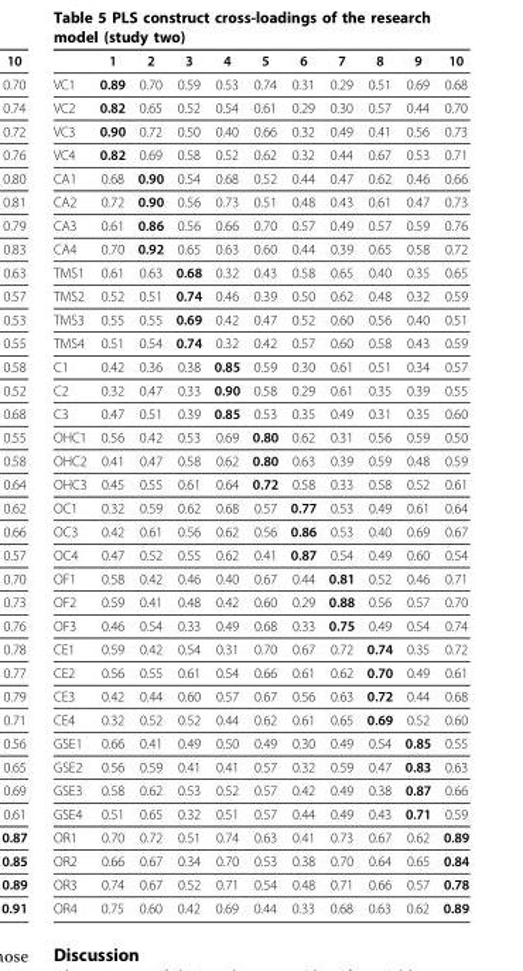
<table><thead><tr><td></td><td>1</td><td>2</td><td>3</td><td>4</td><td>5</td><td>6</td><td>7</td><td>8</td><td>9</td><td>10</td></tr></thead><tbody><tr><td>VC1</td><td>0.89</td><td>0.70</td><td>0.59</td><td>0.53</td><td>0.74</td><td>0.31</td><td>0.29</td><td>0.51</td><td>0.69</td><td>0.68</td></tr><tr><td>VC2</td><td>0.82</td><td>0.65</td><td>0.52</td><td>0.54</td><td>0.61</td><td>0.29</td><td>0.30</td><td>0.57</td><td>0.44</td><td>0.70</td></tr><tr><td>VC3</td><td>0.90</td><td>0.72</td><td>0.50</td><td>0.40</td><td>0.66</td><td>0.32</td><td>0.49</td><td>0.41</td><td>0.56</td><td>0.73</td></tr><tr><td>VC4</td><td>0.82</td><td>0.69</td><td>0.58</td><td>0.52</td><td>0.62</td><td>0.32</td><td>0.44</td><td>0.67</td><td>0.53</td><td>0.71</td></tr><tr><td>CA1</td><td>0.68</td><td>0.90</td><td>0.54</td><td>0.68</td><td>0.52</td><td>0.44</td><td>0.47</td><td>0.62</td><td>0.46</td><td>0.66</td></tr><tr><td>CA2</td><td>0.72</td><td>0.90</td><td>0.56</td><td>0.73</td><td>0.51</td><td>0.48</td><td>0.43</td><td>0.61</td><td>0.47</td><td>0.73</td></tr><tr><td>CA3</td><td>0.61</td><td>0.86</td><td>0.56</td><td>0.66</td><td>0.70</td><td>0.57</td><td>0.49</td><td>0.57</td><td>0.59</td><td>0.76</td></tr><tr><td>CA4</td><td>0.70</td><td>0.92</td><td>0.65</td><td>0.63</td><td>0.60</td><td>0.44</td><td>0.39</td><td>0.65</td><td>0.58</td><td>0.72</td></tr><tr><td>TMS1</td><td>0.61</td><td>0.63</td><td>0.68</td><td>0.32</td><td>0.43</td><td>0.58</td><td>0.65</td><td>0.40</td><td>0.35</td><td>0.65</td></tr><tr><td>TMS2</td><td>0.52</td><td>0.51</td><td>0.74</td><td>0.46</td><td>0.39</td><td>0.50</td><td>0.62</td><td>0.48</td><td>0.32</td><td>0.59</td></tr><tr><td>TMS3</td><td>0.55</td><td>0.55</td><td>0.69</td><td>0.42</td><td>0.47</td><td>0.52</td><td>0.60</td><td>0.56</td><td>0.40</td><td>0.51</td></tr><tr><td>TMS4</td><td>0.51</td><td>0.54</td><td>0.74</td><td>0.32</td><td>0.42</td><td>0.57</td><td>0.60</td><td>0.58</td><td>0.43</td><td>0.59</td></tr><tr><td>C1</td><td>0.42</td><td>0.36</td><td>0.38</td><td>0.85</td><td>0.59</td><td>0.30</td><td>0.61</td><td>0.51</td><td>0.34</td><td>0.57</td></tr><tr><td>C2</td><td>0.32</td><td>0.47</td><td>0.33</td><td>0.90</td><td>0.58</td><td>0.29</td><td>0.61</td><td>0.35</td><td>0.39</td><td>0.55</td></tr><tr><td>C3</td><td>0.47</td><td>0.51</td><td>0.39</td><td>0.85</td><td>0.53</td><td>0.35</td><td>0.49</td><td>0.31</td><td>0.35</td><td>0.60</td></tr><tr><td>OHC1</td><td>0.56</td><td>0.42</td><td>0.53</td><td>0.69</td><td>0.80</td><td>0.62</td><td>0.31</td><td>0.56</td><td>0.59</td><td>0.50</td></tr><tr><td>OHC2</td><td>0.41</td><td>0.47</td><td>0.58</td><td>0.62</td><td>0.80</td><td>0.63</td><td>0.39</td><td>0.59</td><td>0.48</td><td>0.59</td></tr><tr><td>OHC3</td><td>0.45</td><td>0.55</td><td>0.61</td><td>0.64</td><td>0.72</td><td>0.58</td><td>0.33</td><td>0.58</td><td>0.52</td><td>0.61</td></tr><tr><td>OC1</td><td>0.32</td><td>0.59</td><td>0.62</td><td>0.68</td><td>0.57</td><td>0.77</td><td>0.53</td><td>0.49</td><td>0.61</td><td>0.64</td></tr><tr><td>OC3</td><td>0.42</td><td>0.61</td><td>0.56</td><td>0.62</td><td>0.56</td><td>0.86</td><td>0.53</td><td>0.40</td><td>0.69</td><td>0.67</td></tr><tr><td>OC4</td><td>0.47</td><td>0.52</td><td>0.55</td><td>0.62</td><td>0.41</td><td>0.87</td><td>0.54</td><td>0.49</td><td>0.60</td><td>0.54</td></tr><tr><td>OF1</td><td>0.58</td><td>0.42</td><td>0.46</td><td>0.40</td><td>0.67</td><td>0.44</td><td>0.81</td><td>0.52</td><td>0.46</td><td>0.71</td></tr><tr><td>OF2</td><td>0.59</td><td>0.41</td><td>0.48</td><td>0.42</td><td>0.60</td><td>0.29</td><td>0.88</td><td>0.56</td><td>0.57</td><td>0.70</td></tr><tr><td>OF3</td><td>0.46</td><td>0.54</td><td>0.33</td><td>0.49</td><td>0.68</td><td>0.33</td><td>0.75</td><td>0.49</td><td>0.54</td><td>0.74</td></tr><tr><td>CE1</td><td>0.59</td><td>0.42</td><td>0.54</td><td>0.31</td><td>0.70</td><td>0.67</td><td>0.72</td><td>0.74</td><td>0.35</td><td>0.72</td></tr><tr><td>CE2</td><td>0.56</td><td>0.55</td><td>0.61</td><td>0.54</td><td>0.66</td><td>0.61</td><td>0.62</td><td>0.70</td><td>0.49</td><td>0.61</td></tr><tr><td>CE3</td><td>0.42</td><td>0.44</td><td>0.60</td><td>0.57</td><td>0.67</td><td>0.56</td><td>0.63</td><td>0.72</td><td>0.44</td><td>0.68</td></tr><tr><td>CE4</td><td>0.32</td><td>0.52</td><td>0.52</td><td>0.44</td><td>0.62</td><td>0.61</td><td>0.65</td><td>0.69</td><td>0.52</td><td>0.60</td></tr><tr><td>GSE1</td><td>0.66</td><td>0.41</td><td>0.49</td><td>0.50</td><td>0.49</td><td>0.30</td><td>0.49</td><td>0.54</td><td>0.85</td><td>0.55</td></tr><tr><td>GSE2</td><td>0.56</td><td>0.59</td><td>0.41</td><td>0.41</td><td>0.57</td><td>0.32</td><td>0.59</td><td>0.47</td><td>0.83</td><td>0.63</td></tr><tr><td>GSE3</td><td>0.58</td><td>0.62</td><td>0.53</td><td>0.52</td><td>0.57</td><td>0.42</td><td>0.49</td><td>0.38</td><td>0.87</td><td>0.66</td></tr><tr><td>GSE4</td><td>0.51</td><td>0.65</td><td>0.32</td><td>0.51</td><td>0.57</td><td>0.44</td><td>0.49</td><td>0.43</td><td>0.71</td><td>0.59</td></tr><tr><td>OR1</td><td>0.70</td><td>0.72</td><td>0.51</td><td>0.74</td><td>0.63</td><td>0.41</td><td>0.73</td><td>0.67</td><td>0.62</td><td>0.89</td></tr><tr><td>OR2</td><td>0.66</td><td>0.67</td><td>0.34</td><td>0.70</td><td>0.53</td><td>0.38</td><td>0.70</td><td>0.64</td><td>0.65</td><td>0.84</td></tr><tr><td>OR3</td><td>0.74</td><td>0.67</td><td>0.52</td><td>0.71</td><td>0.54</td><td>0.48</td><td>0.71</td><td>0.66</td><td>0.57</td><td>0.78</td></tr><tr><td>OR4</td><td>0.75</td><td>0.60</td><td>0.42</td><td>0.69</td><td>0.44</td><td>0.33</td><td>0.68</td><td>0.63</td><td>0.62</td><td>0.89</td></tr></tbody></table>